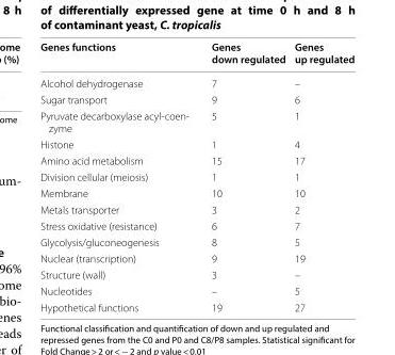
<table><thead><tr><td>Genes functions</td><td>Genes down regulated</td><td>Genes up regulated</td></tr></thead><tbody><tr><td>Alcohol dehydrogenase</td><td>7</td><td>–</td></tr><tr><td>Sugar transport</td><td>9</td><td>6</td></tr><tr><td>Pyruvate decarboxylase acyl‑coen‑ zyme</td><td>5</td><td>1</td></tr><tr><td>Histone</td><td>1</td><td>4</td></tr><tr><td>Amino acid metabolism</td><td>15</td><td>17</td></tr><tr><td>Division cellular (meiosis)</td><td>1</td><td>1</td></tr><tr><td>Membrane</td><td>10</td><td>10</td></tr><tr><td>Metals transporter</td><td>3</td><td>2</td></tr><tr><td>Stress oxidative (resistance)</td><td>6</td><td>7</td></tr><tr><td>Glycolysis/gluconeogenesis</td><td>8</td><td>5</td></tr><tr><td>Nuclear (transcription)</td><td>9</td><td>19</td></tr><tr><td>Structure (wall)</td><td>3</td><td>–</td></tr><tr><td>Nucleotides</td><td>–</td><td>5</td></tr><tr><td>Hypothetical functions</td><td>19</td><td>27</td></tr></tbody></table>